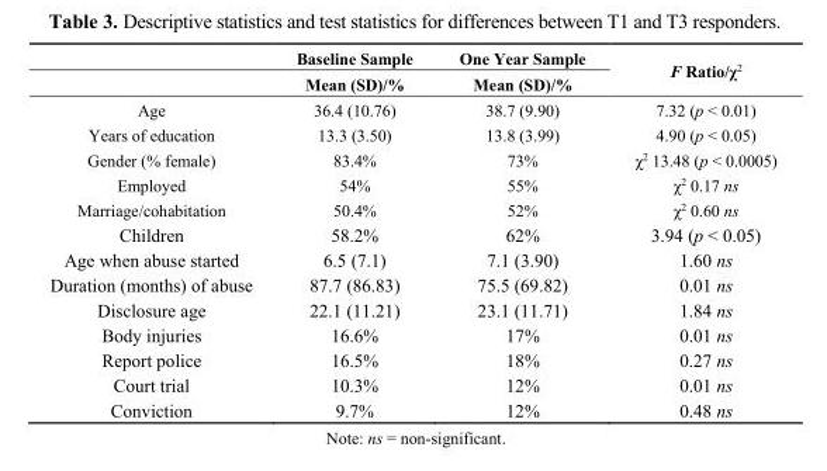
<table><thead><tr><td rowspan="2"></td><td rowspan="2">Baseline Sample Mean (SD)/%</td><td rowspan="2">One Year Sample Mean (SD)/%</td><td rowspan="2">F Ratio/χ<sup>2</sup></td></tr><tr></tr></thead><tbody><tr><td>Age</td><td>36.4 (10.76)</td><td>38.7 (9.90)</td><td>7.32 (p &lt; 0.01)</td></tr><tr><td>Years of education</td><td>13.3 (3.50)</td><td>13.8 (3.99)</td><td>4.90 (p &lt; 0.05)</td></tr><tr><td>Gender (% female)</td><td>83.4%</td><td>73%</td><td>χ<sup>2</sup> 13.48 (p &lt; 0.0005)</td></tr><tr><td>Employed</td><td>54%</td><td>55%</td><td>χ<sup>2</sup> 0.17 ns</td></tr><tr><td>Marriage/cohabitation</td><td>50.4%</td><td>52%</td><td>χ<sup>2</sup> 0.60 ns</td></tr><tr><td>Children</td><td>58.2%</td><td>62%</td><td>3.94 (p &lt; 0.05)</td></tr><tr><td>Age when abuse started</td><td>6.5 (7.1)</td><td>7.1 (3.90)</td><td>1.60 ns</td></tr><tr><td>Duration (months) of abuse</td><td>87.7 (86.83)</td><td>75.5 (69.82)</td><td>0.01 ns</td></tr><tr><td>Disclosure age</td><td>22.1 (11.21)</td><td>23.1 (11.71)</td><td>1.84 ns</td></tr><tr><td>Body injuries</td><td>16.6%</td><td>17%</td><td>0.01 ns</td></tr><tr><td>Report police</td><td>16.5%</td><td>18%</td><td>0.27 ns</td></tr><tr><td>Court trial</td><td>10.3%</td><td>12%</td><td>0.01 ns</td></tr><tr><td>Conviction</td><td>9.7%</td><td>12%</td><td>0.48 ns</td></tr></tbody></table>